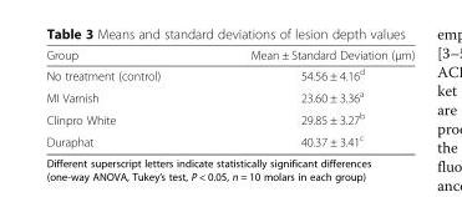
<table><thead><tr><td>Group</td><td>Mean ± Standard Deviation (μm)</td></tr></thead><tbody><tr><td>No treatment (control)</td><td>54.56 ± 4.16<sup>d</sup></td></tr><tr><td>MI Varnish</td><td>23.60 ± 3.36<sup>a</sup></td></tr><tr><td>Clinpro White</td><td>29.85 ± 3.27<sup>b</sup></td></tr><tr><td>Duraphat</td><td>40.37 ± 3.41<sup>c</sup></td></tr></tbody></table>